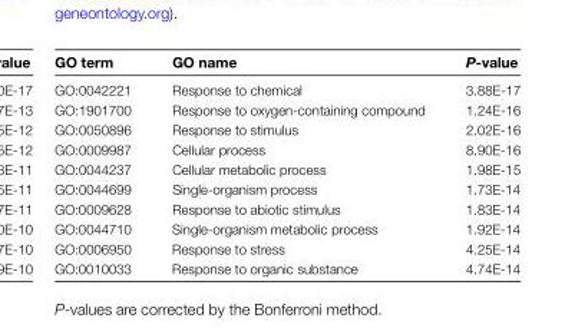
<table><thead><tr><td>GO term</td><td>GO name</td><td>P-value</td></tr></thead><tbody><tr><td>GO:0042221</td><td>Response to chemical</td><td>3.88E-17</td></tr><tr><td>GO:1901700</td><td>Response to oxygen-containing compound</td><td>1.24E-16</td></tr><tr><td>GO:0050896</td><td>Response to stimulus</td><td>2.02E-16</td></tr><tr><td>GO:0009987</td><td>Cellular process</td><td>8.90E-16</td></tr><tr><td>GO:0044237</td><td>Cellular metabolic process</td><td>1.98E-15</td></tr><tr><td>GO:0044699</td><td>Single-organism process</td><td>1.73E-14</td></tr><tr><td>GO:0009628</td><td>Response to abiotic stimulus</td><td>1.83E-14</td></tr><tr><td>GO:0044710</td><td>Single-organism metabolic process</td><td>1.92E-14</td></tr><tr><td>GO:0006950</td><td>Response to stress</td><td>4.25E-14</td></tr><tr><td>GO:0010033</td><td>Response to organic substance</td><td>4.74E-14</td></tr></tbody></table>